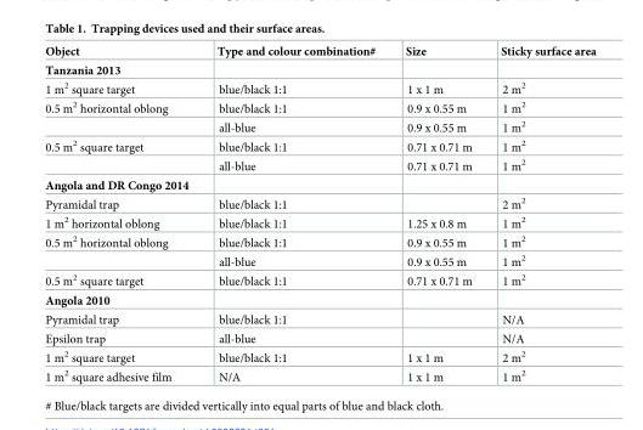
<table><thead><tr><td>Object</td><td>Type and colour combination#</td><td>Size</td><td>Sticky surface area</td></tr></thead><tbody><tr><td colspan="4">Tanzania 2013</td></tr><tr><td>1 m<sup>2</sup> square target</td><td>blue/black 1:1</td><td>1 x 1 m</td><td>2 m<sup>2</sup></td></tr><tr><td rowspan="2">0.5 m<sup>2</sup> horizontal oblong</td><td>blue/black 1:1</td><td>0.9 x 0.55 m</td><td>1 m<sup>2</sup></td></tr><tr><td>all-blue</td><td>0.9 x 0.55 m</td><td>1 m<sup>2</sup></td></tr><tr><td rowspan="2">0.5 m<sup>2</sup> square target</td><td>blue/black 1:1</td><td>0.71 x 0.71 m</td><td>1 m<sup>2</sup></td></tr><tr><td>all-blue</td><td>0.71 x 0.71 m</td><td>1 m<sup>2</sup></td></tr><tr><td colspan="4">Angola and DR Congo 2014</td></tr><tr><td>Pyramidal trap</td><td>blue/black 1:1</td><td></td><td>2 m<sup>2</sup></td></tr><tr><td>1 m<sup>2</sup> horizontal oblong</td><td>blue/black 1:1</td><td>1.25 x 0.8 m</td><td>1 m<sup>2</sup></td></tr><tr><td rowspan="2">0.5 m<sup>2</sup> horizontal oblong</td><td>blue/black 1:1</td><td>0.9 x 0.55 m</td><td>1 m<sup>2</sup></td></tr><tr><td>all-blue</td><td>0.9 x 0.55 m</td><td>1 m<sup>2</sup></td></tr><tr><td>0.5 m<sup>2</sup> square target</td><td>blue/black 1:1</td><td>0.71 x 0.71 m</td><td>1 m<sup>2</sup></td></tr><tr><td colspan="4">Angola 2010</td></tr><tr><td>Pyramidal trap</td><td>blue/black 1:1</td><td></td><td>N/A</td></tr><tr><td>Epsilon trap</td><td>all-blue</td><td></td><td>N/A</td></tr><tr><td>1 m<sup>2</sup> square target</td><td>blue/black 1:1</td><td>1 x 1 m</td><td>2 m<sup>2</sup></td></tr><tr><td>1 m<sup>2</sup> square adhesive film</td><td>N/A</td><td>1 x 1 m</td><td>1 m<sup>2</sup></td></tr></tbody></table>